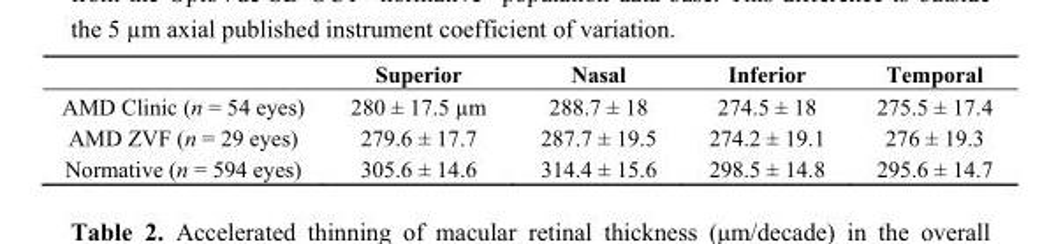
<table><thead><tr><td></td><td>Superior</td><td>Nasal</td><td>Inferior</td><td>Temporal</td></tr></thead><tbody><tr><td>AMD Clinic (n = 54 eyes)</td><td>280 ± 17.5 µm</td><td>288.7 ± 18</td><td>274.5 ± 18</td><td>275.5 ± 17.4</td></tr><tr><td>AMD ZVF (n = 29 eyes)</td><td>279.6 ± 17.7</td><td>287.7 ± 19.5</td><td>274.2 ± 19.1</td><td>276 ± 19.3</td></tr><tr><td>Normative (n = 594 eyes)</td><td>305.6 ± 14.6</td><td>314.4 ± 15.6</td><td>298.5 ± 14.8</td><td>295.6 ± 14.7</td></tr></tbody></table>